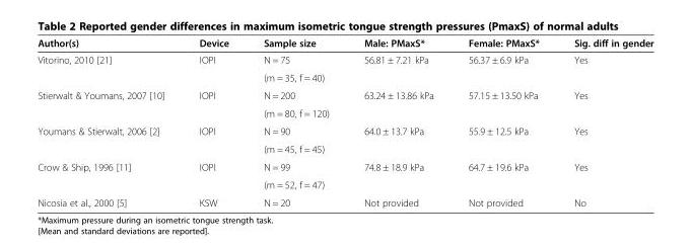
<table><thead><tr><td>Author(s)</td><td>Device</td><td>Sample size</td><td>Male: PMaxS*</td><td>Female: PMaxS*</td><td>Sig. diff in gender</td></tr></thead><tbody><tr><td rowspan="2">Vitorino, 2010 [21]</td><td rowspan="2">IOPI</td><td>N = 75</td><td rowspan="2">56.81 ± 7.21 kPa</td><td rowspan="2">56.37 ± 6.9 kPa</td><td rowspan="2">Yes</td></tr><tr><td>(m = 35, f = 40)</td></tr><tr><td rowspan="2">Stierwalt &amp; Youmans, 2007 [10]</td><td rowspan="2">IOPI</td><td>N = 200</td><td rowspan="2">63.24 ± 13.86 kPa</td><td rowspan="2">57.15 ± 13.50 kPa</td><td rowspan="2">Yes</td></tr><tr><td>(m = 80, f = 120)</td></tr><tr><td rowspan="2">Youmans &amp; Stierwalt, 2006 [2]</td><td rowspan="2">IOPI</td><td>N = 90</td><td rowspan="2">64.0 ± 13.7 kPa</td><td rowspan="2">55.9 ± 12.5 kPa</td><td rowspan="2">Yes</td></tr><tr><td>(m = 45, f = 45)</td></tr><tr><td rowspan="2">Crow &amp; Ship, 1996 [11]</td><td rowspan="2">IOPI</td><td>N = 99</td><td rowspan="2">74.8 ± 18.9 kPa</td><td rowspan="2">64.7 ± 19.6 kPa</td><td rowspan="2">Yes</td></tr><tr><td>(m = 52, f = 47)</td></tr><tr><td>Nicosia et al., 2000 [5]</td><td>KSW</td><td>N = 20</td><td>Not provided</td><td>Not provided</td><td>No</td></tr></tbody></table>